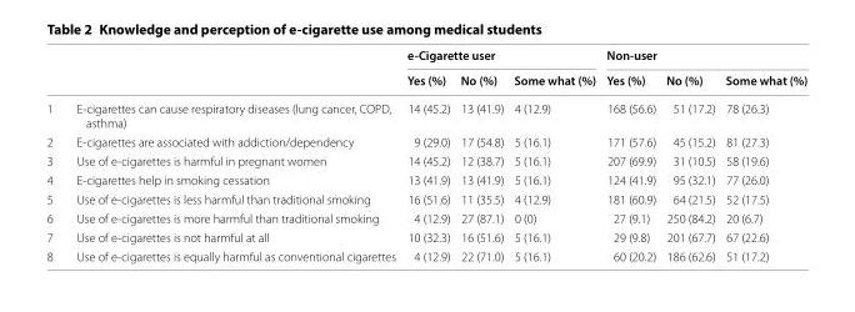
<table><thead><tr><td rowspan="2"></td><td rowspan="2"></td><td colspan="3">e-Cigarette user</td><td colspan="3">Non-user</td></tr><tr><td>Yes (%)</td><td>No (%)</td><td>Some what (%)</td><td>Yes (%)</td><td>No (%)</td><td>Some what (%)</td></tr></thead><tbody><tr><td>1</td><td>E-cigarettes can cause respiratory diseases (lung cancer, COPD, asthma)</td><td>14 (45.2)</td><td>13 (41.9)</td><td>4 (12.9)</td><td>168 (56.6)</td><td>51 (17.2)</td><td>78 (26.3)</td></tr><tr><td>2</td><td>E-cigarettes are associated with addiction/dependency</td><td>9 (29.0)</td><td>17 (54.8)</td><td>5 (16.1)</td><td>171 (57.6)</td><td>45 (15.2)</td><td>81 (27.3)</td></tr><tr><td>3</td><td>Use of e-cigarettes is harmful in pregnant women</td><td>14 (45.2)</td><td>12 (38.7)</td><td>5 (16.1)</td><td>207 (69.9)</td><td>31 (10.5)</td><td>58 (19.6)</td></tr><tr><td>4</td><td>E-cigarettes help in smoking cessation</td><td>13 (41.9)</td><td>13 (41.9)</td><td>5 (16.1)</td><td>124 (41.9)</td><td>95 (32.1)</td><td>77 (26.0)</td></tr><tr><td>5</td><td>Use of e-cigarettes is less harmful than traditional smoking</td><td>16 (51.6)</td><td>11 (35.5)</td><td>4 (12.9)</td><td>181 (60.9)</td><td>64 (21.5)</td><td>52 (17.5)</td></tr><tr><td>6</td><td>Use of e-cigarettes is more harmful than traditional smoking</td><td>4 (12.9)</td><td>27 (87.1)</td><td>0 (0)</td><td>27 (9.1)</td><td>250 (84.2)</td><td>20 (6.7)</td></tr><tr><td>7</td><td>Use of e-cigarettes is not harmful at all</td><td>10 (32.3)</td><td>16 (51.6)</td><td>5 (16.1)</td><td>29 (9.8)</td><td>201 (67.7)</td><td>67 (22.6)</td></tr><tr><td>8</td><td>Use of e-cigarettes is equally harmful as conventional cigarettes</td><td>4 (12.9)</td><td>22 (71.0)</td><td>5 (16.1)</td><td>60 (20.2)</td><td>186 (62.6)</td><td>51 (17.2)</td></tr></tbody></table>